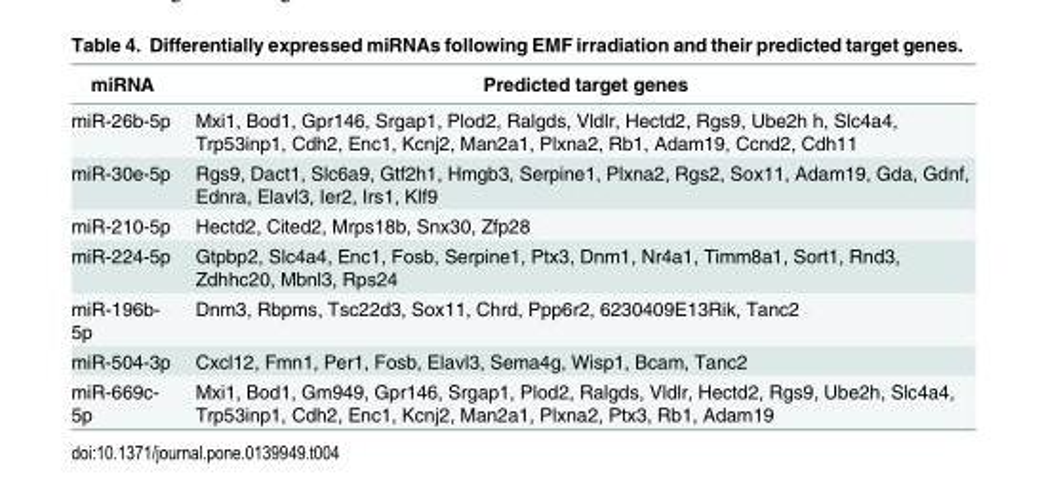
<table><thead><tr><td>miRNA</td><td>Predicted target genes</td></tr></thead><tbody><tr><td>miR-26b-5p</td><td>Mxi1, Bod1, Gpr146, Srgap1, Plod2, Ralgds, Vldlr, Hectd2, Rgs9, Ube2h h, Slc4a4, Trp53inp1, Cdh2, Enc1, Kcnj2, Man2a1, Plxna2, Rb1, Adam19, Ccnd2, Cdh11</td></tr><tr><td>miR-30e-5p</td><td>Rgs9, Dact1, Slc6a9, Gtf2h1, Hmgb3, Serpine1, Plxna2, Rgs2, Sox11, Adam19, Gda, Gdnf, Ednra, Elavl3, Ier2, Irs1, Klf9</td></tr><tr><td>miR-210-5p</td><td>Hectd2, Cited2, Mrps18b, Snx30, Zfp28</td></tr><tr><td>miR-224-5p</td><td>Gtpbp2, Slc4a4, Enc1, Fosb, Serpine1, Ptx3, Dnm1, Nr4a1, Timm8a1, Sort1, Rnd3, Zdhhc20, Mbnl3, Rps24</td></tr><tr><td>miR-196b- 5p</td><td>Dnm3, Rbpms, Tsc22d3, Sox11, Chrd, Ppp6r2, 6230409E13Rik, Tanc2</td></tr><tr><td>miR-504-3p</td><td>Cxcl12, Fmn1, Per1, Fosb, Elavl3, Sema4g, Wisp1, Bcam, Tanc2</td></tr><tr><td>miR-669c- 5p</td><td>Mxi1, Bod1, Gm949, Gpr146, Srgap1, Plod2, Ralgds, Vldlr, Hectd2, Rgs9, Ube2h, Slc4a4, Trp53inp1, Cdh2, Enc1, Kcnj2, Man2a1, Plxna2, Ptx3, Rb1, Adam19</td></tr></tbody></table>